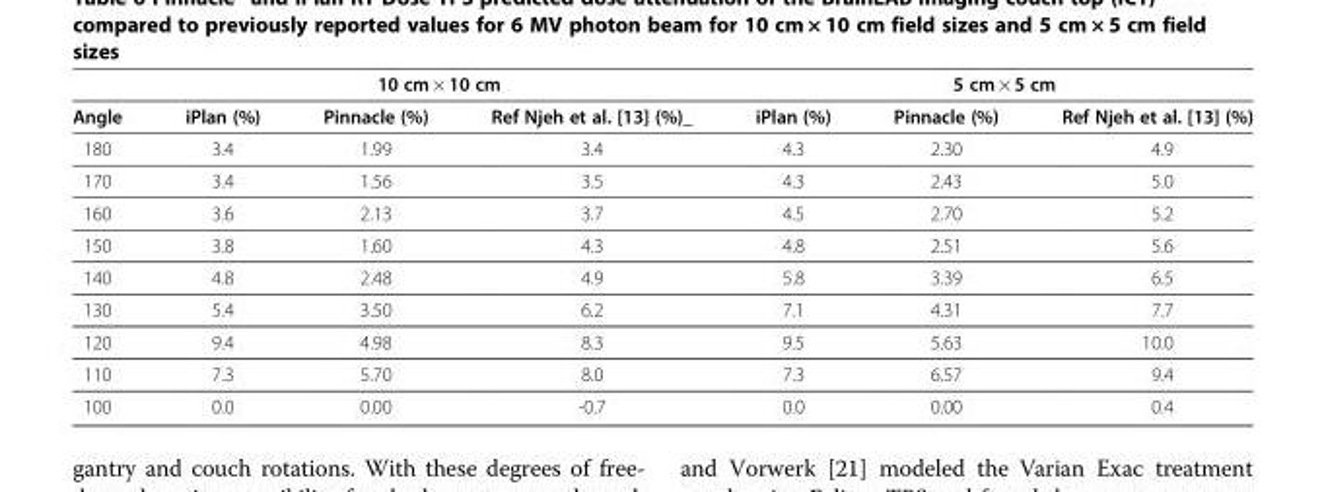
<table><thead><tr><td rowspan="2">Angle</td><td colspan="3">10 cm × 10 cm</td><td colspan="3">5 cm × 5 cm</td></tr><tr><td>iPlan (%)</td><td>Pinnacle (%)</td><td>Ref Njeh et al. [13] (%)_</td><td>iPlan (%)</td><td>Pinnacle (%)</td><td>Ref Njeh et al. [13] (%)</td></tr></thead><tbody><tr><td>180</td><td>3.4</td><td>1.99</td><td>3.4</td><td>4.3</td><td>2.30</td><td>4.9</td></tr><tr><td>170</td><td>3.4</td><td>1.56</td><td>3.5</td><td>4.3</td><td>2.43</td><td>5.0</td></tr><tr><td>160</td><td>3.6</td><td>2.13</td><td>3.7</td><td>4.5</td><td>2.70</td><td>5.2</td></tr><tr><td>150</td><td>3.8</td><td>1.60</td><td>4.3</td><td>4.8</td><td>2.51</td><td>5.6</td></tr><tr><td>140</td><td>4.8</td><td>2.48</td><td>4.9</td><td>5.8</td><td>3.39</td><td>6.5</td></tr><tr><td>130</td><td>5.4</td><td>3.50</td><td>6.2</td><td>7.1</td><td>4.31</td><td>7.7</td></tr><tr><td>120</td><td>9.4</td><td>4.98</td><td>8.3</td><td>9.5</td><td>5.63</td><td>10.0</td></tr><tr><td>110</td><td>7.3</td><td>5.70</td><td>8.0</td><td>7.3</td><td>6.57</td><td>9.4</td></tr><tr><td>100</td><td>0.0</td><td>0.00</td><td>-0.7</td><td>0.0</td><td>0.00</td><td>0.4</td></tr></tbody></table>